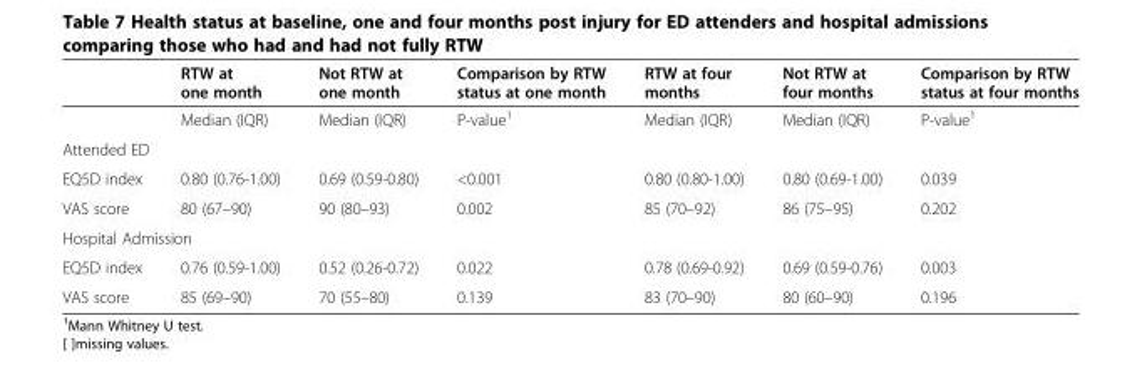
<table><thead><tr><td></td><td>RTW at one month</td><td>Not RTW at one month</td><td>Comparison by RTW status at one month</td><td>RTW at four months</td><td>Not RTW at four months</td><td>Comparison by RTW status at four months</td></tr></thead><tbody><tr><td></td><td>Median (IQR)</td><td>Median (IQR)</td><td>P-value<sup>1</sup></td><td>Median (IQR)</td><td>Median (IQR)</td><td>P-value<sup>1</sup></td></tr><tr><td colspan="7">Attended ED</td></tr><tr><td>EQ5D index</td><td>0.80 (0.76-1.00)</td><td>0.69 (0.59-0.80)</td><td>&lt;0.001</td><td>0.80 (0.80-1.00)</td><td>0.80 (0.69-1.00)</td><td>0.039</td></tr><tr><td>VAS score</td><td>80 (67–90)</td><td>90 (80–93)</td><td>0.002</td><td>85 (70–92)</td><td>86 (75–95)</td><td>0.202</td></tr><tr><td colspan="7">Hospital Admission</td></tr><tr><td>EQ5D index</td><td>0.76 (0.59-1.00)</td><td>0.52 (0.26-0.72)</td><td>0.022</td><td>0.78 (0.69-0.92)</td><td>0.69 (0.59-0.76)</td><td>0.003</td></tr><tr><td>VAS score</td><td>85 (69–90)</td><td>70 (55–80)</td><td>0.139</td><td>83 (70–90)</td><td>80 (60–90)</td><td>0.196</td></tr></tbody></table>